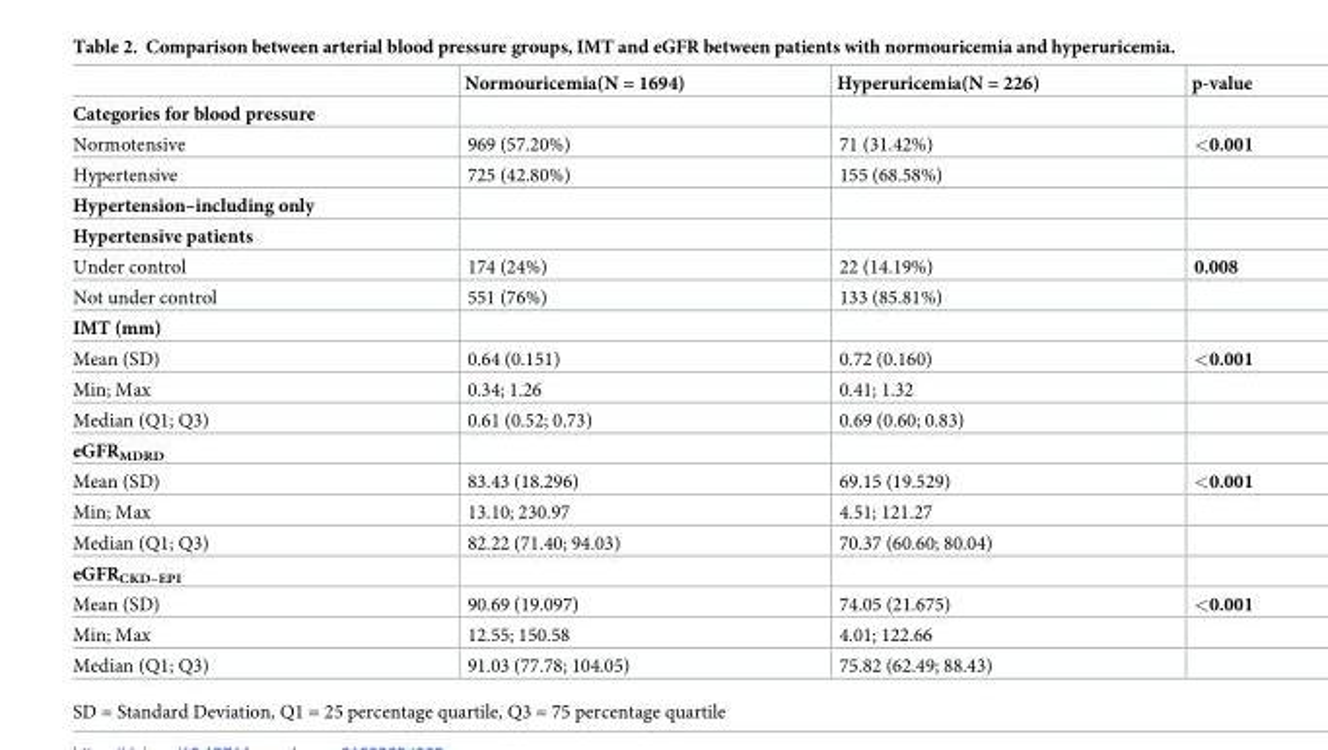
<table><thead><tr><td></td><td>Normouricemia(N = 1694)</td><td>Hyperuricemia(N = 226)</td><td>p-value</td></tr></thead><tbody><tr><td colspan="4">Categories for blood pressure</td></tr><tr><td>Normotensive</td><td>969 (57.20%)</td><td>71 (31.42%)</td><td>&lt;0.001</td></tr><tr><td>Hypertensive</td><td>725 (42.80%)</td><td>155 (68.58%)</td><td></td></tr><tr><td colspan="4">Hypertension–including only</td></tr><tr><td colspan="4">Hypertensive patients</td></tr><tr><td>Under control</td><td>174 (24%)</td><td>22 (14.19%)</td><td>0.008</td></tr><tr><td>Not under control</td><td>551 (76%)</td><td>133 (85.81%)</td><td></td></tr><tr><td colspan="4">IMT (mm)</td></tr><tr><td>Mean (SD)</td><td>0.64 (0.151)</td><td>0.72 (0.160)</td><td>&lt;0.001</td></tr><tr><td>Min; Max</td><td>0.34; 1.26</td><td>0.41; 1.32</td><td></td></tr><tr><td>Median (Q1; Q3)</td><td>0.61 (0.52; 0.73)</td><td>0.69 (0.60; 0.83)</td><td></td></tr><tr><td colspan="4">eGFR<sub>MDRD</sub></td></tr><tr><td>Mean (SD)</td><td>83.43 (18.296)</td><td>69.15 (19.529)</td><td>&lt;0.001</td></tr><tr><td>Min; Max</td><td>13.10; 230.97</td><td>4.51; 121.27</td><td></td></tr><tr><td>Median (Q1; Q3)</td><td>82.22 (71.40; 94.03)</td><td>70.37 (60.60; 80.04)</td><td></td></tr><tr><td colspan="4">eGFR<sub>CKD–EPI</sub></td></tr><tr><td>Mean (SD)</td><td>90.69 (19.097)</td><td>74.05 (21.675)</td><td>&lt;0.001</td></tr><tr><td>Min; Max</td><td>12.55; 150.58</td><td>4.01; 122.66</td><td></td></tr><tr><td>Median (Q1; Q3)</td><td>91.03 (77.78; 104.05)</td><td>75.82 (62.49; 88.43)</td><td></td></tr></tbody></table>